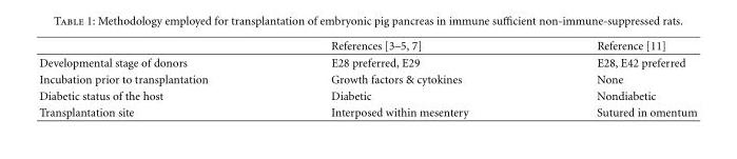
<table><thead><tr><td></td><td>References [3–5, 7]</td><td>Reference [11]</td></tr></thead><tbody><tr><td>Developmental stage of donors</td><td>E28 preferred, E29</td><td>E28, E42 preferred</td></tr><tr><td>Incubation prior to transplantation</td><td>Growth factors &amp; cytokines</td><td>None</td></tr><tr><td>Diabetic status of the host</td><td>Diabetic</td><td>Nondiabetic</td></tr><tr><td>Transplantation site</td><td>Interposed within mesentery</td><td>Sutured in omentum</td></tr></tbody></table>